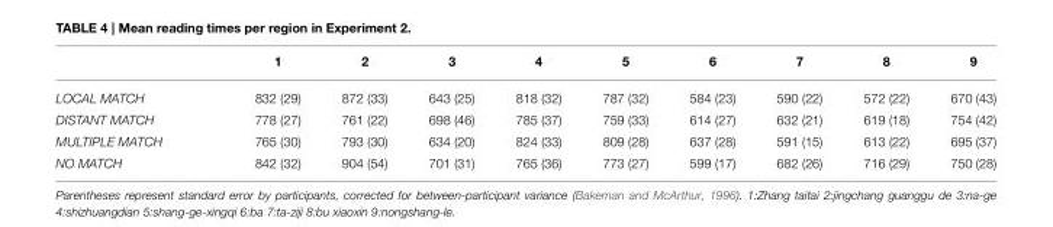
<table><thead><tr><td></td><td>1</td><td>2</td><td>3</td><td>4</td><td>5</td><td>6</td><td>7</td><td>8</td><td>9</td></tr></thead><tbody><tr><td>LOCAL MATCH</td><td>832 (29)</td><td>872 (33)</td><td>643 (25)</td><td>818 (32)</td><td>787 (32)</td><td>584 (23)</td><td>590 (22)</td><td>572 (22)</td><td>670 (43)</td></tr><tr><td>DISTANT MATCH</td><td>778 (27)</td><td>761 (22)</td><td>698 (46)</td><td>785 (37)</td><td>759 (33)</td><td>614 (27)</td><td>632 (21)</td><td>619 (18)</td><td>754 (42)</td></tr><tr><td>MULTIPLE MATCH</td><td>765 (30)</td><td>793 (30)</td><td>634 (20)</td><td>824 (33)</td><td>809 (28)</td><td>637 (28)</td><td>591 (15)</td><td>613 (22)</td><td>695 (37)</td></tr><tr><td>NO MATCH</td><td>842 (32)</td><td>904 (54)</td><td>701 (31)</td><td>765 (36)</td><td>773 (27)</td><td>599 (17)</td><td>682 (26)</td><td>716 (29)</td><td>750 (28)</td></tr></tbody></table>